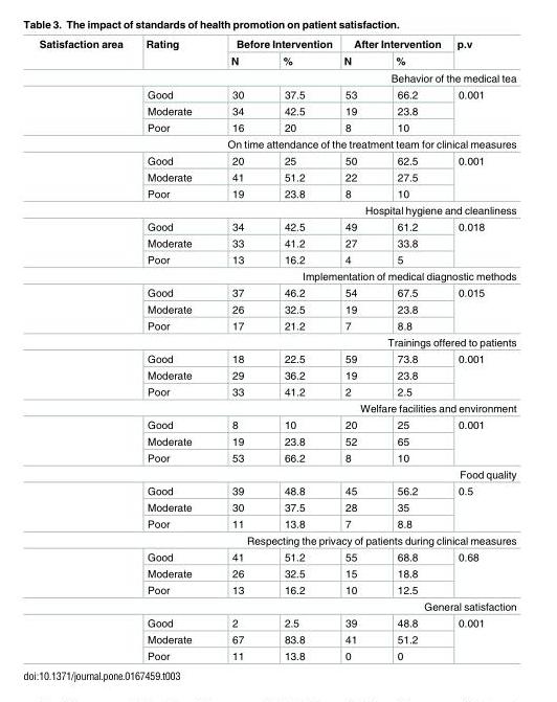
<table><thead><tr><td rowspan="2">Satisfaction area</td><td rowspan="2">Rating</td><td colspan="2">Before Intervention</td><td colspan="2">After Intervention</td><td rowspan="2">p.v</td></tr><tr><td>N</td><td>%</td><td>N</td><td>%</td></tr></thead><tbody><tr><td colspan="7">Behavior of the medical tea</td></tr><tr><td rowspan="3"></td><td>Good</td><td>30</td><td>37.5</td><td>53</td><td>66.2</td><td rowspan="3">0.001</td></tr><tr><td>Moderate</td><td>34</td><td>42.5</td><td>19</td><td>23.8</td></tr><tr><td>Poor</td><td>16</td><td>20</td><td>8</td><td>10</td></tr><tr><td colspan="7">On time attendance of the treatment team for clinical measures</td></tr><tr><td rowspan="3"></td><td>Good</td><td>20</td><td>25</td><td>50</td><td>62.5</td><td rowspan="3">0.001</td></tr><tr><td>Moderate</td><td>41</td><td>51.2</td><td>22</td><td>27.5</td></tr><tr><td>Poor</td><td>19</td><td>23.8</td><td>8</td><td>10</td></tr><tr><td colspan="7">Hospital hygiene and cleanliness</td></tr><tr><td rowspan="3"></td><td>Good</td><td>34</td><td>42.5</td><td>49</td><td>61.2</td><td rowspan="3">0.018</td></tr><tr><td>Moderate</td><td>33</td><td>41.2</td><td>27</td><td>33.8</td></tr><tr><td>Poor</td><td>13</td><td>16.2</td><td>4</td><td>5</td></tr><tr><td colspan="7">Implementation of medical diagnostic methods</td></tr><tr><td rowspan="3"></td><td>Good</td><td>37</td><td>46.2</td><td>54</td><td>67.5</td><td rowspan="3">0.015</td></tr><tr><td>Moderate</td><td>26</td><td>32.5</td><td>19</td><td>23.8</td></tr><tr><td>Poor</td><td>17</td><td>21.2</td><td>7</td><td>8.8</td></tr><tr><td colspan="7">Trainings offered to patients</td></tr><tr><td rowspan="3"></td><td>Good</td><td>18</td><td>22.5</td><td>59</td><td>73.8</td><td rowspan="3">0.001</td></tr><tr><td>Moderate</td><td>29</td><td>36.2</td><td>19</td><td>23.8</td></tr><tr><td>Poor</td><td>33</td><td>41.2</td><td>2</td><td>2.5</td></tr><tr><td colspan="7">Welfare facilities and environment</td></tr><tr><td rowspan="3"></td><td>Good</td><td>8</td><td>10</td><td>20</td><td>25</td><td rowspan="3">0.001</td></tr><tr><td>Moderate</td><td>19</td><td>23.8</td><td>52</td><td>65</td></tr><tr><td>Poor</td><td>53</td><td>66.2</td><td>8</td><td>10</td></tr><tr><td colspan="7">Food quality</td></tr><tr><td rowspan="3"></td><td>Good</td><td>39</td><td>48.8</td><td>45</td><td>56.2</td><td rowspan="3">0.5</td></tr><tr><td>Moderate</td><td>30</td><td>37.5</td><td>28</td><td>35</td></tr><tr><td>Poor</td><td>11</td><td>13.8</td><td>7</td><td>8.8</td></tr><tr><td colspan="7">Respecting the privacy of patients during clinical measures</td></tr><tr><td rowspan="3"></td><td>Good</td><td>41</td><td>51.2</td><td>55</td><td>68.8</td><td rowspan="3">0.68</td></tr><tr><td>Moderate</td><td>26</td><td>32.5</td><td>15</td><td>18.8</td></tr><tr><td>Poor</td><td>13</td><td>16.2</td><td>10</td><td>12.5</td></tr><tr><td colspan="7">General satisfaction</td></tr><tr><td rowspan="3"></td><td>Good</td><td>2</td><td>2.5</td><td>39</td><td>48.8</td><td rowspan="3">0.001</td></tr><tr><td>Moderate</td><td>67</td><td>83.8</td><td>41</td><td>51.2</td></tr><tr><td>Poor</td><td>11</td><td>13.8</td><td>0</td><td>0</td></tr></tbody></table>